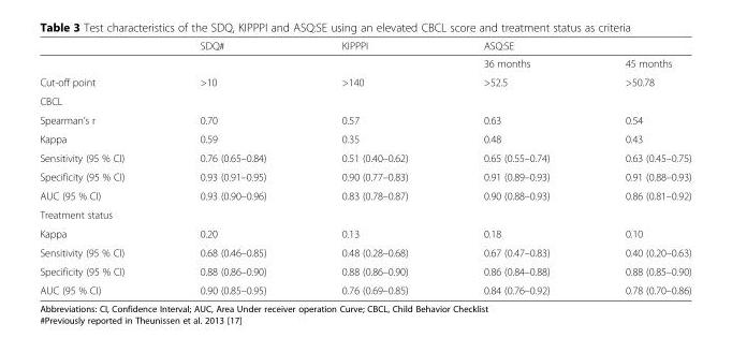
<table><thead><tr><td rowspan="2"></td><td rowspan="2">SDQ#</td><td rowspan="2">KIPPPI</td><td colspan="2">ASQ:SE</td></tr><tr><td>36 months</td><td>45 months</td></tr></thead><tbody><tr><td>Cut-off point</td><td>&gt;10</td><td>&gt;140</td><td>&gt;52.5</td><td>&gt;50.78</td></tr><tr><td colspan="5">CBCL</td></tr><tr><td>Spearman’s r</td><td>0.70</td><td>0.57</td><td>0.63</td><td>0.54</td></tr><tr><td>Kappa</td><td>0.59</td><td>0.35</td><td>0.48</td><td>0.43</td></tr><tr><td>Sensitivity (95 % CI)</td><td>0.76 (0.65–0.84)</td><td>0.51 (0.40–0.62)</td><td>0.65 (0.55–0.74)</td><td>0.63 (0.45–0.75)</td></tr><tr><td>Specificity (95 % CI)</td><td>0.93 (0.91–0.95)</td><td>0.90 (0.77–0.83)</td><td>0.91 (0.89–0.93)</td><td>0.91 (0.88–0.93)</td></tr><tr><td>AUC (95 % CI)</td><td>0.93 (0.90–0.96)</td><td>0.83 (0.78–0.87)</td><td>0.90 (0.88–0.93)</td><td>0.86 (0.81–0.92)</td></tr><tr><td colspan="5">Treatment status</td></tr><tr><td>Kappa</td><td>0.20</td><td>0.13</td><td>0.18</td><td>0.10</td></tr><tr><td>Sensitivity (95 % CI)</td><td>0.68 (0.46–0.85)</td><td>0.48 (0.28–0.68)</td><td>0.67 (0.47–0.83)</td><td>0.40 (0.20–0.63)</td></tr><tr><td>Specificity (95 % CI)</td><td>0.88 (0.86–0.90)</td><td>0.88 (0.86–0.90)</td><td>0.86 (0.84–0.88)</td><td>0.88 (0.85–0.90)</td></tr><tr><td>AUC (95 % CI)</td><td>0.90 (0.85–0.95)</td><td>0.76 (0.69–0.85)</td><td>0.84 (0.76–0.92)</td><td>0.78 (0.70–0.86)</td></tr></tbody></table>